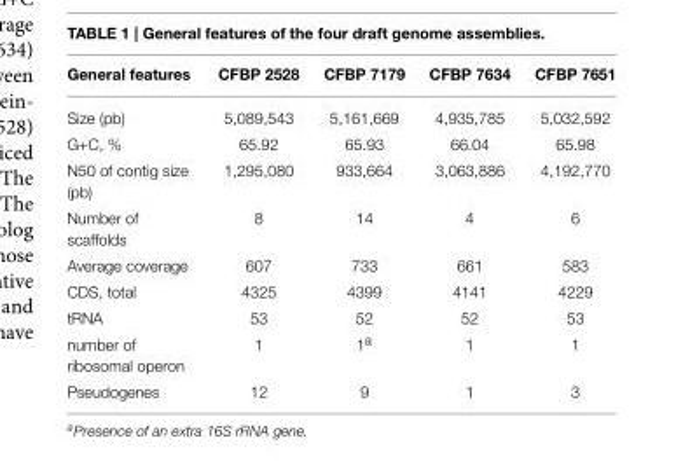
<table><thead><tr><td>General features</td><td>CFBP 2528</td><td>CFBP 7179</td><td>CFBP 7634</td><td>CFBP 7651</td></tr></thead><tbody><tr><td>Size (pb)</td><td>5,089,543</td><td>5,161,669</td><td>4,935,785</td><td>5,032,592</td></tr><tr><td>G+C, %</td><td>65.92</td><td>65.93</td><td>66.04</td><td>65.98</td></tr><tr><td>N50 of contig size (pb)</td><td>1,295,080</td><td>933,664</td><td>3,063,886</td><td>4,192,770</td></tr><tr><td>Number of scaffolds</td><td>8</td><td>14</td><td>4</td><td>6</td></tr><tr><td>Average coverage</td><td>607</td><td>733</td><td>661</td><td>583</td></tr><tr><td>CDS, total</td><td>4325</td><td>4399</td><td>4141</td><td>4229</td></tr><tr><td>tRNA</td><td>53</td><td>52</td><td>52</td><td>53</td></tr><tr><td>number of ribosomal operon</td><td>1</td><td>1<sup>a</sup></td><td>1</td><td>1</td></tr><tr><td>Pseudogenes</td><td>12</td><td>9</td><td>1</td><td>3</td></tr></tbody></table>